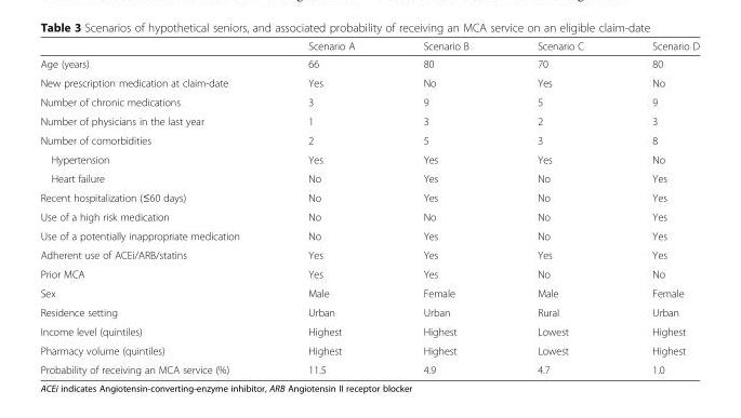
<table><thead><tr><td></td><td>Scenario A</td><td>Scenario B</td><td>Scenario C</td><td>Scenario D</td></tr></thead><tbody><tr><td>Age (years)</td><td>66</td><td>80</td><td>70</td><td>80</td></tr><tr><td>New prescription medication at claim-date</td><td>Yes</td><td>No</td><td>Yes</td><td>No</td></tr><tr><td>Number of chronic medications</td><td>3</td><td>9</td><td>5</td><td>9</td></tr><tr><td>Number of physicians in the last year</td><td>1</td><td>3</td><td>2</td><td>3</td></tr><tr><td>Number of comorbidities</td><td>2</td><td>5</td><td>3</td><td>8</td></tr><tr><td>Hypertension</td><td>Yes</td><td>Yes</td><td>Yes</td><td>No</td></tr><tr><td>Heart failure</td><td>No</td><td>Yes</td><td>No</td><td>Yes</td></tr><tr><td>Recent hospitalization (≤60 days)</td><td>No</td><td>Yes</td><td>No</td><td>Yes</td></tr><tr><td>Use of a high risk medication</td><td>No</td><td>No</td><td>No</td><td>Yes</td></tr><tr><td>Use of a potentially inappropriate medication</td><td>No</td><td>Yes</td><td>No</td><td>Yes</td></tr><tr><td>Adherent use of ACEi/ARB/statins</td><td>Yes</td><td>Yes</td><td>Yes</td><td>Yes</td></tr><tr><td>Prior MCA</td><td>Yes</td><td>Yes</td><td>No</td><td>No</td></tr><tr><td>Sex</td><td>Male</td><td>Female</td><td>Male</td><td>Female</td></tr><tr><td>Residence setting</td><td>Urban</td><td>Urban</td><td>Rural</td><td>Urban</td></tr><tr><td>Income level (quintiles)</td><td>Highest</td><td>Highest</td><td>Lowest</td><td>Highest</td></tr><tr><td>Pharmacy volume (quintiles)</td><td>Highest</td><td>Highest</td><td>Lowest</td><td>Highest</td></tr><tr><td>Probability of receiving an MCA service (%)</td><td>11.5</td><td>4.9</td><td>4.7</td><td>1.0</td></tr></tbody></table>